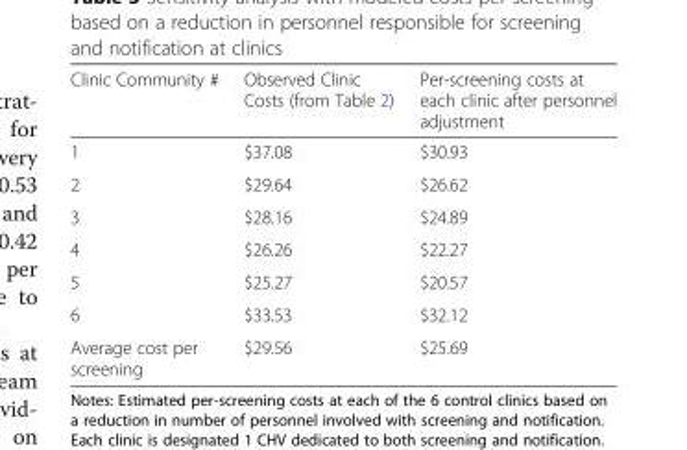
<table><thead><tr><td>Clinic Community #</td><td>Observed Clinic Costs (from Table 2)</td><td>Per-screening costs at each clinic after personnel adjustment</td></tr></thead><tbody><tr><td>1</td><td>$37.08</td><td>$30.93</td></tr><tr><td>2</td><td>$29.64</td><td>$26.62</td></tr><tr><td>3</td><td>$28.16</td><td>$24.89</td></tr><tr><td>4</td><td>$26.26</td><td>$22.27</td></tr><tr><td>5</td><td>$25.27</td><td>$20.57</td></tr><tr><td>6</td><td>$33.53</td><td>$32.12</td></tr><tr><td>Average cost per screening</td><td>$29.56</td><td>$25.69</td></tr></tbody></table>